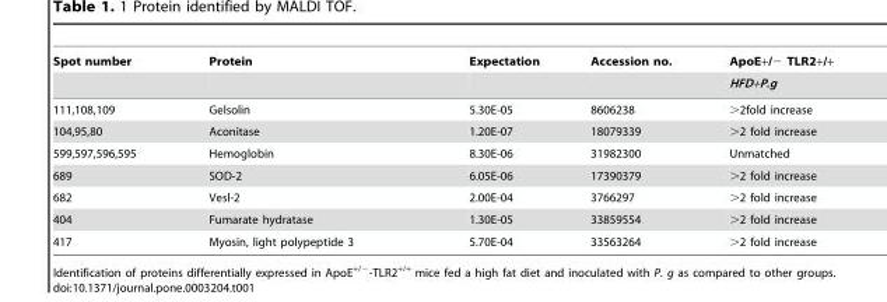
<table><thead><tr><td rowspan="2">Spot number</td><td rowspan="2">Protein</td><td rowspan="2">Expectation</td><td rowspan="2">Accession no.</td><td rowspan="2">ApoE+/− TLR2+/+ HFD+P.g</td></tr><tr></tr></thead><tbody><tr><td>111,108,109</td><td>Gelsolin</td><td>5.30E-05</td><td>8606238</td><td>&gt;2fold increase</td></tr><tr><td>104,95,80</td><td>Aconitase</td><td>1.20E-07</td><td>18079339</td><td>&gt;2 fold increase</td></tr><tr><td>599,597,596,595</td><td>Hemoglobin</td><td>8.30E-06</td><td>31982300</td><td>Unmatched</td></tr><tr><td>689</td><td>SOD-2</td><td>6.05E-06</td><td>17390379</td><td>&gt;2 fold increase</td></tr><tr><td>682</td><td>Vesl-2</td><td>2.00E-04</td><td>3766297</td><td>&gt;2 fold increase</td></tr><tr><td>404</td><td>Fumarate hydratase</td><td>1.30E-05</td><td>33859554</td><td>&gt;2 fold increase</td></tr><tr><td>417</td><td>Myosin, light polypeptide 3</td><td>5.70E-04</td><td>33563264</td><td>&gt;2 fold increase</td></tr></tbody></table>